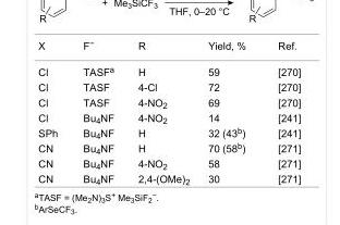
<table><tbody><tr><td>X</td><td>F<sup>−</sup></td><td>R</td><td>Yield, %</td><td>Ref.</td></tr><tr><td>Cl</td><td>TASF<sup>a</sup></td><td>H</td><td>59</td><td>[270]</td></tr><tr><td>Cl</td><td>TASF</td><td>4-Cl</td><td>72</td><td>[270]</td></tr><tr><td>Cl</td><td>TASF</td><td>4-NO<sub>2</sub></td><td>69</td><td>[270]</td></tr><tr><td>Cl</td><td>Bu<sub>4</sub>NF</td><td>4-NO<sub>2</sub></td><td>14</td><td>[241]</td></tr><tr><td>SPh</td><td>Bu<sub>4</sub>NF</td><td>H</td><td>32 (43<sup>b</sup>)</td><td>[241]</td></tr><tr><td>CN</td><td>Bu<sub>4</sub>NF</td><td>H</td><td>70 (58<sup>b</sup>)</td><td>[271]</td></tr><tr><td>CN</td><td>Bu<sub>4</sub>NF</td><td>4-NO<sub>2</sub></td><td>58</td><td>[271]</td></tr><tr><td>CN</td><td>Bu<sub>4</sub>NF</td><td>2,4-(OMe)<sub>2</sub></td><td>30</td><td>[271]</td></tr></tbody></table>